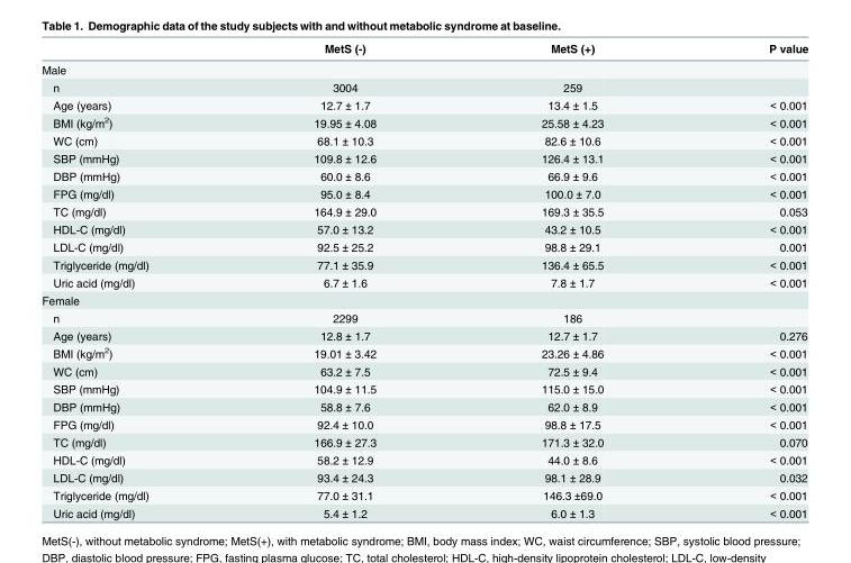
<table><thead><tr><td></td><td>MetS (-)</td><td>MetS (+)</td><td>P value</td></tr></thead><tbody><tr><td colspan="4">Male</td></tr><tr><td>n</td><td>3004</td><td>259</td><td></td></tr><tr><td>Age (years)</td><td>12.7 ± 1.7</td><td>13.4 ± 1.5</td><td>&lt; 0.001</td></tr><tr><td>BMI (kg/m<sup>2</sup>)</td><td>19.95 ± 4.08</td><td>25.58 ± 4.23</td><td>&lt; 0.001</td></tr><tr><td>WC (cm)</td><td>68.1 ± 10.3</td><td>82.6 ± 10.6</td><td>&lt; 0.001</td></tr><tr><td>SBP (mmHg)</td><td>109.8 ± 12.6</td><td>126.4 ± 13.1</td><td>&lt; 0.001</td></tr><tr><td>DBP (mmHg)</td><td>60.0 ± 8.6</td><td>66.9 ± 9.6</td><td>&lt; 0.001</td></tr><tr><td>FPG (mg/dl)</td><td>95.0 ± 8.4</td><td>100.0 ± 7.0</td><td>&lt; 0.001</td></tr><tr><td>TC (mg/dl)</td><td>164.9 ± 29.0</td><td>169.3 ± 35.5</td><td>0.053</td></tr><tr><td>HDL-C (mg/dl)</td><td>57.0 ± 13.2</td><td>43.2 ± 10.5</td><td>&lt; 0.001</td></tr><tr><td>LDL-C (mg/dl)</td><td>92.5 ± 25.2</td><td>98.8 ± 29.1</td><td>0.001</td></tr><tr><td>Triglyceride (mg/dl)</td><td>77.1 ± 35.9</td><td>136.4 ± 65.5</td><td>&lt; 0.001</td></tr><tr><td>Uric acid (mg/dl)</td><td>6.7 ± 1.6</td><td>7.8 ± 1.7</td><td>&lt; 0.001</td></tr><tr><td colspan="4">Female</td></tr><tr><td>n</td><td>2299</td><td>186</td><td></td></tr><tr><td>Age (years)</td><td>12.8 ± 1.7</td><td>12.7 ± 1.7</td><td>0.276</td></tr><tr><td>BMI (kg/m<sup>2</sup>)</td><td>19.01 ± 3.42</td><td>23.26 ± 4.86</td><td>&lt; 0.001</td></tr><tr><td>WC (cm)</td><td>63.2 ± 7.5</td><td>72.5 ± 9.4</td><td>&lt; 0.001</td></tr><tr><td>SBP (mmHg)</td><td>104.9 ± 11.5</td><td>115.0 ± 15.0</td><td>&lt; 0.001</td></tr><tr><td>DBP (mmHg)</td><td>58.8 ± 7.6</td><td>62.0 ± 8.9</td><td>&lt; 0.001</td></tr><tr><td>FPG (mg/dl)</td><td>92.4 ± 10.0</td><td>98.8 ± 17.5</td><td>&lt; 0.001</td></tr><tr><td>TC (mg/dl)</td><td>166.9 ± 27.3</td><td>171.3 ± 32.0</td><td>0.070</td></tr><tr><td>HDL-C (mg/dl)</td><td>58.2 ± 12.9</td><td>44.0 ± 8.6</td><td>&lt; 0.001</td></tr><tr><td>LDL-C (mg/dl)</td><td>93.4 ± 24.3</td><td>98.1 ± 28.9</td><td>0.032</td></tr><tr><td>Triglyceride (mg/dl)</td><td>77.0 ± 31.1</td><td>146.3 ±69.0</td><td>&lt; 0.001</td></tr><tr><td>Uric acid (mg/dl)</td><td>5.4 ± 1.2</td><td>6.0 ± 1.3</td><td>&lt; 0.001</td></tr></tbody></table>